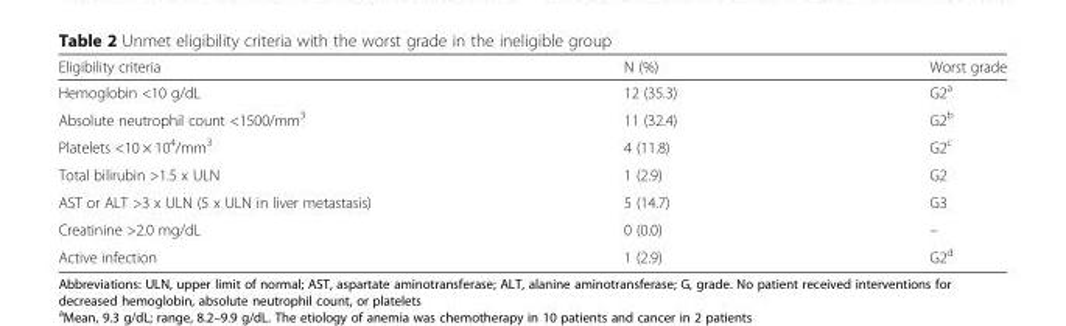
<table><thead><tr><td>Eligibility criteria</td><td>N (%)</td><td>Worst grade</td></tr></thead><tbody><tr><td>Hemoglobin &lt;10 g/dL</td><td>12 (35.3)</td><td>G2<sup>a</sup></td></tr><tr><td>Absolute neutrophil count &lt;1500/mm<sup>3</sup></td><td>11 (32.4)</td><td>G2<sup>b</sup></td></tr><tr><td>Platelets &lt;10 × 10<sup>4</sup>/mm<sup>3</sup></td><td>4 (11.8)</td><td>G2<sup>c</sup></td></tr><tr><td>Total bilirubin &gt;1.5 x ULN</td><td>1 (2.9)</td><td>G2</td></tr><tr><td>AST or ALT &gt;3 x ULN (5 x ULN in liver metastasis)</td><td>5 (14.7)</td><td>G3</td></tr><tr><td>Creatinine &gt;2.0 mg/dL</td><td>0 (0.0)</td><td>–</td></tr><tr><td>Active infection</td><td>1 (2.9)</td><td>G2<sup>d</sup></td></tr></tbody></table>